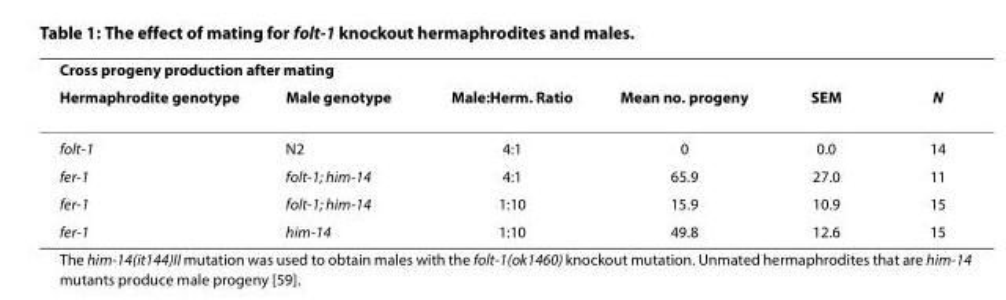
<table><thead><tr><td colspan="6">Cross progeny production after mating</td></tr><tr><td>Hermaphrodite genotype</td><td>Male genotype</td><td>Male:Herm. Ratio</td><td>Mean no. progeny</td><td>SEM</td><td>N</td></tr></thead><tbody><tr><td>folt-1</td><td>N2</td><td>4:1</td><td>0</td><td>0.0</td><td>14</td></tr><tr><td>fer-1</td><td>folt-1; him-14</td><td>4:1</td><td>65.9</td><td>27.0</td><td>11</td></tr><tr><td>fer-1</td><td>folt-1; him-14</td><td>1:10</td><td>15.9</td><td>10.9</td><td>15</td></tr><tr><td>fer-1</td><td>him-14</td><td>1:10</td><td>49.8</td><td>12.6</td><td>15</td></tr></tbody></table>